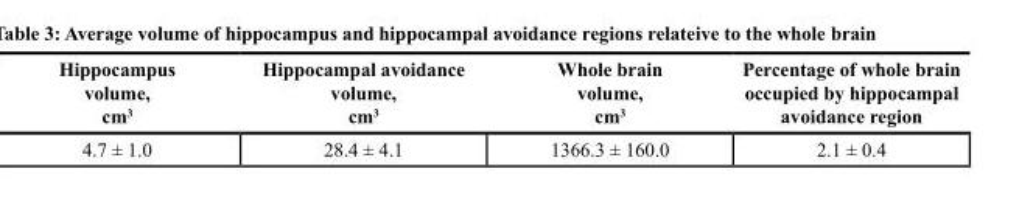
<table><thead><tr><td>Hippocampus volume, cm<sup>3</sup></td><td>Hippocampal avoidance volume, cm<sup>3</sup></td><td>Whole brain volume, cm<sup>3</sup></td><td>Percentage of whole brain occupied by hippocampal avoidance region</td></tr></thead><tbody><tr><td>4.7 ± 1.0</td><td>28.4 ± 4.1</td><td>1366.3 ± 160.0</td><td>2.1 ± 0.4</td></tr></tbody></table>